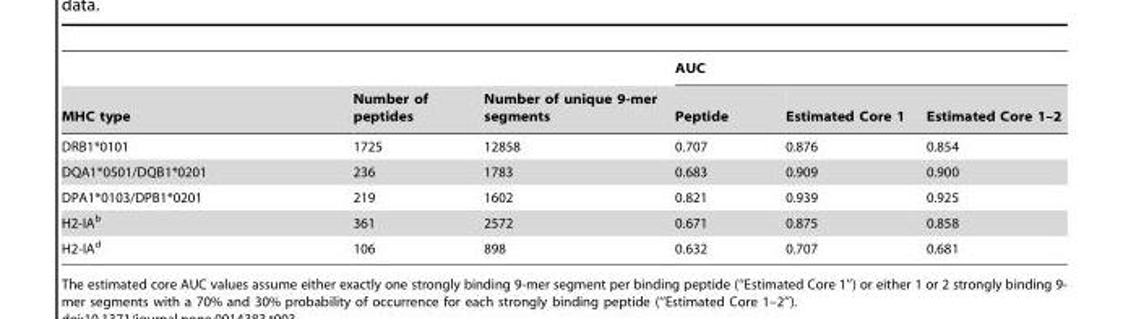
<table><thead><tr><td rowspan="2">MHC type</td><td rowspan="2">Number of peptides</td><td rowspan="2">Number of unique 9-mer segments</td><td colspan="3">AUC</td></tr><tr><td>Peptide</td><td>Estimated Core 1</td><td>Estimated Core 1–2</td></tr></thead><tbody><tr><td>DRB1*0101</td><td>1725</td><td>12858</td><td>0.707</td><td>0.876</td><td>0.854</td></tr><tr><td>DQA1*0501/DQB1*0201</td><td>236</td><td>1783</td><td>0.683</td><td>0.909</td><td>0.900</td></tr><tr><td>DPA1*0103/DPB1*0201</td><td>219</td><td>1602</td><td>0.821</td><td>0.939</td><td>0.925</td></tr><tr><td>H2-IA<sup>b</sup></td><td>361</td><td>2572</td><td>0.671</td><td>0.875</td><td>0.858</td></tr><tr><td>H2-IA<sup>d</sup></td><td>106</td><td>898</td><td>0.632</td><td>0.707</td><td>0.681</td></tr></tbody></table>